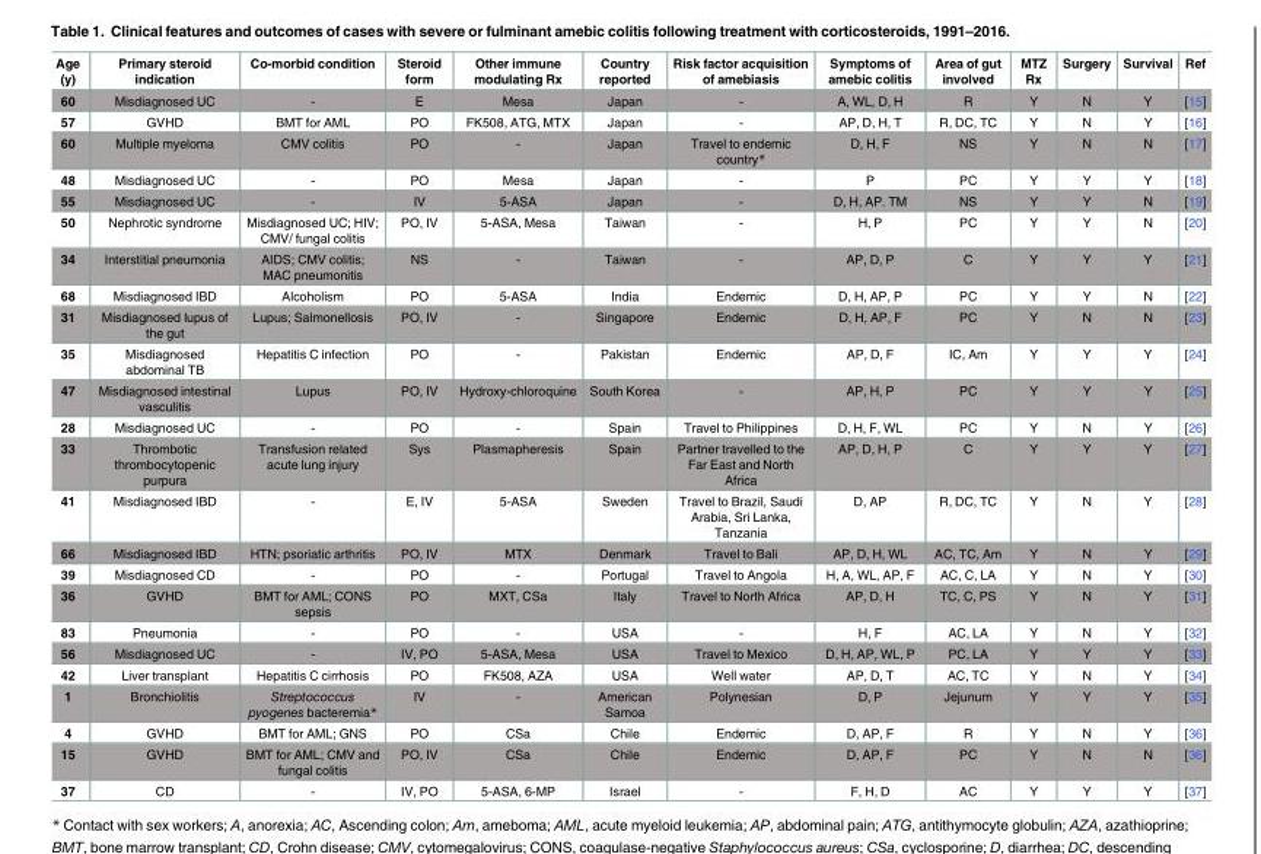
<table><thead><tr><td>Age (y)</td><td>Primary steroid indication</td><td>Co-morbid condition</td><td>Steroid form</td><td>Other immune modulating Rx</td><td>Country reported</td><td>Risk factor acquisition of amebiasis</td><td>Symptoms of amebic colitis</td><td>Area of gut involved</td><td>MTZ Rx</td><td>Surgery</td><td>Survival</td><td>Ref</td></tr></thead><tbody><tr><td>60</td><td>Misdiagnosed UC</td><td>-</td><td>E</td><td>Mesa</td><td>Japan</td><td>-</td><td>A, WL, D, H</td><td>R</td><td>Y</td><td>N</td><td>Y</td><td>[15]</td></tr><tr><td>57</td><td>GVHD</td><td>BMT for AML</td><td>PO</td><td>FK508, ATG, MTX</td><td>Japan</td><td>-</td><td>AP, D, H, T</td><td>R, DC, TC</td><td>Y</td><td>N</td><td>Y</td><td>[16]</td></tr><tr><td>60</td><td>Multiple myeloma</td><td>CMV colitis</td><td>PO</td><td>-</td><td>Japan</td><td>Travel to endemic country*</td><td>D, H, F</td><td>NS</td><td>Y</td><td>N</td><td>N</td><td>[17]</td></tr><tr><td>48</td><td>Misdiagnosed UC</td><td>-</td><td>PO</td><td>Mesa</td><td>Japan</td><td>-</td><td>P</td><td>PC</td><td>Y</td><td>Y</td><td>Y</td><td>[18]</td></tr><tr><td>55</td><td>Misdiagnosed UC</td><td>-</td><td>IV</td><td>5-ASA</td><td>Japan</td><td>-</td><td>D, H, AP. TM</td><td>NS</td><td>Y</td><td>Y</td><td>N</td><td>[19]</td></tr><tr><td>50</td><td>Nephrotic syndrome</td><td>Misdiagnosed UC; HIV; CMV/ fungal colitis</td><td>PO, IV</td><td>5-ASA, Mesa</td><td>Taiwan</td><td>-</td><td>H, P</td><td>PC</td><td>Y</td><td>Y</td><td>N</td><td>[20]</td></tr><tr><td>34</td><td>Interstitial pneumonia</td><td>AIDS; CMV colitis; MAC pneumonitis</td><td>NS</td><td>-</td><td>Taiwan</td><td>-</td><td>AP, D, P</td><td>C</td><td>Y</td><td>Y</td><td>Y</td><td>[21]</td></tr><tr><td>68</td><td>Misdiagnosed IBD</td><td>Alcoholism</td><td>PO</td><td>5-ASA</td><td>India</td><td>Endemic</td><td>D, H, AP, P</td><td>PC</td><td>Y</td><td>Y</td><td>N</td><td>[22]</td></tr><tr><td>31</td><td>Misdiagnosed lupus of the gut</td><td>Lupus; Salmonellosis</td><td>PO, IV</td><td>-</td><td>Singapore</td><td>Endemic</td><td>D, H, AP, F</td><td>PC</td><td>Y</td><td>N</td><td>N</td><td>[23]</td></tr><tr><td>35</td><td>Misdiagnosed abdominal TB</td><td>Hepatitis C infection</td><td>PO</td><td>-</td><td>Pakistan</td><td>Endemic</td><td>AP, D, F</td><td>IC, Am</td><td>Y</td><td>Y</td><td>Y</td><td>[24]</td></tr><tr><td>47</td><td>Misdiagnosed intestinal vasculitis</td><td>Lupus</td><td>PO, IV</td><td>Hydroxy-chloroquine</td><td>South Korea</td><td>-</td><td>AP, H, P</td><td>PC</td><td>Y</td><td>Y</td><td>Y</td><td>[25]</td></tr><tr><td>28</td><td>Misdiagnosed UC</td><td>-</td><td>PO</td><td>-</td><td>Spain</td><td>Travel to Philippines</td><td>D, H, F, WL</td><td>PC</td><td>Y</td><td>N</td><td>Y</td><td>[26]</td></tr><tr><td>33</td><td>Thrombotic thrombocytopenic purpura</td><td>Transfusion related acute lung injury</td><td>Sys</td><td>Plasmapheresis</td><td>Spain</td><td>Partner travelled to the Far East and North Africa</td><td>AP, D, H, P</td><td>C</td><td>Y</td><td>Y</td><td>Y</td><td>[27]</td></tr><tr><td>41</td><td>Misdiagnosed IBD</td><td>-</td><td>E, IV</td><td>5-ASA</td><td>Sweden</td><td>Travel to Brazil, Saudi Arabia, Sri Lanka, Tanzania</td><td>D, AP</td><td>R, DC, TC</td><td>Y</td><td>N</td><td>Y</td><td>[28]</td></tr><tr><td>66</td><td>Misdiagnosed IBD</td><td>HTN; psoriatic arthritis</td><td>PO, IV</td><td>MTX</td><td>Denmark</td><td>Travel to Bali</td><td>AP, D, H, WL</td><td>AC, TC, Am</td><td>Y</td><td>N</td><td>Y</td><td>[29]</td></tr><tr><td>39</td><td>Misdiagnosed CD</td><td>-</td><td>PO</td><td>-</td><td>Portugal</td><td>Travel to Angola</td><td>H, A, WL, AP, F</td><td>AC, C, LA</td><td>Y</td><td>N</td><td>Y</td><td>[30]</td></tr><tr><td>36</td><td>GVHD</td><td>BMT for AML; CONS sepsis</td><td>PO</td><td>MXT, CSa</td><td>Italy</td><td>Travel to North Africa</td><td>AP, D, H</td><td>TC, C, PS</td><td>Y</td><td>N</td><td>Y</td><td>[31]</td></tr><tr><td>83</td><td>Pneumonia</td><td>-</td><td>PO</td><td>-</td><td>USA</td><td>-</td><td>H, F</td><td>AC, LA</td><td>Y</td><td>N</td><td>Y</td><td>[32]</td></tr><tr><td>56</td><td>Misdiagnosed UC</td><td>-</td><td>IV, PO</td><td>5-ASA, Mesa</td><td>USA</td><td>Travel to Mexico</td><td>D, H, AP, WL, P</td><td>PC, LA</td><td>Y</td><td>Y</td><td>Y</td><td>[33]</td></tr><tr><td>42</td><td>Liver transplant</td><td>Hepatitis C cirrhosis</td><td>PO</td><td>FK508, AZA</td><td>USA</td><td>Well water</td><td>AP, D, T</td><td>AC, TC</td><td>Y</td><td>N</td><td>Y</td><td>[34]</td></tr><tr><td>1</td><td>Bronchiolitis</td><td>Streptococcus pyogenes bacteremia*</td><td>IV</td><td>-</td><td>American Samoa</td><td>Polynesian</td><td>D, P</td><td>Jejunum</td><td>Y</td><td>Y</td><td>Y</td><td>[35]</td></tr><tr><td>4</td><td>GVHD</td><td>BMT for AML; GNS</td><td>PO</td><td>CSa</td><td>Chile</td><td>Endemic</td><td>D, AP, F</td><td>R</td><td>Y</td><td>N</td><td>Y</td><td>[36]</td></tr><tr><td>15</td><td>GVHD</td><td>BMT for AML; CMV and fungal colitis</td><td>PO, IV</td><td>CSa</td><td>Chile</td><td>Endemic</td><td>D, AP, F</td><td>PC</td><td>Y</td><td>N</td><td>N</td><td>[36]</td></tr><tr><td>37</td><td>CD</td><td>-</td><td>IV, PO</td><td>5-ASA, 6-MP</td><td>Israel</td><td>-</td><td>F, H, D</td><td>AC</td><td>Y</td><td>Y</td><td>Y</td><td>[37]</td></tr></tbody></table>